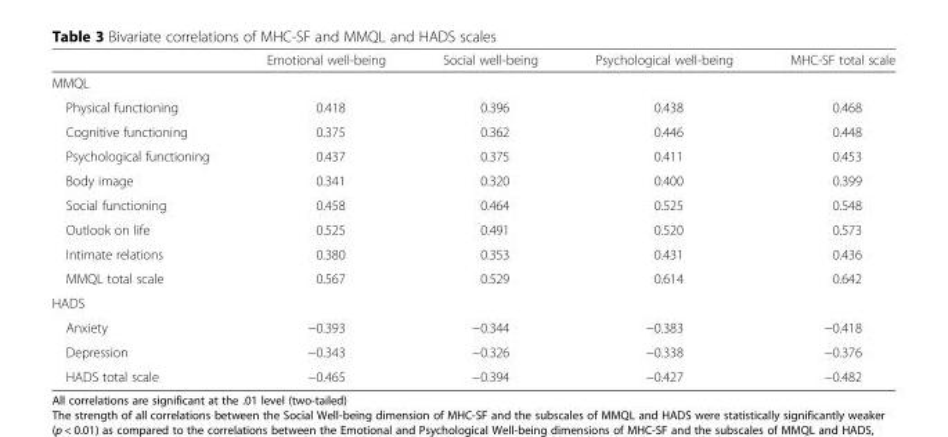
<table><thead><tr><td></td><td>Emotional well-being</td><td>Social well-being</td><td>Psychological well-being</td><td>MHC-SF total scale</td></tr></thead><tbody><tr><td colspan="5">MMQL</td></tr><tr><td>Physical functioning</td><td>0.418</td><td>0.396</td><td>0.438</td><td>0.468</td></tr><tr><td>Cognitive functioning</td><td>0.375</td><td>0.362</td><td>0.446</td><td>0.448</td></tr><tr><td>Psychological functioning</td><td>0.437</td><td>0.375</td><td>0.411</td><td>0.453</td></tr><tr><td>Body image</td><td>0.341</td><td>0.320</td><td>0.400</td><td>0.399</td></tr><tr><td>Social functioning</td><td>0.458</td><td>0.464</td><td>0.525</td><td>0.548</td></tr><tr><td>Outlook on life</td><td>0.525</td><td>0.491</td><td>0.520</td><td>0.573</td></tr><tr><td>Intimate relations</td><td>0.380</td><td>0.353</td><td>0.431</td><td>0.436</td></tr><tr><td>MMQL total scale</td><td>0.567</td><td>0.529</td><td>0.614</td><td>0.642</td></tr><tr><td colspan="5">HADS</td></tr><tr><td>Anxiety</td><td>−0.393</td><td>−0.344</td><td>−0.383</td><td>−0.418</td></tr><tr><td>Depression</td><td>−0.343</td><td>−0.326</td><td>−0.338</td><td>−0.376</td></tr><tr><td>HADS total scale</td><td>−0.465</td><td>−0.394</td><td>−0.427</td><td>−0.482</td></tr></tbody></table>